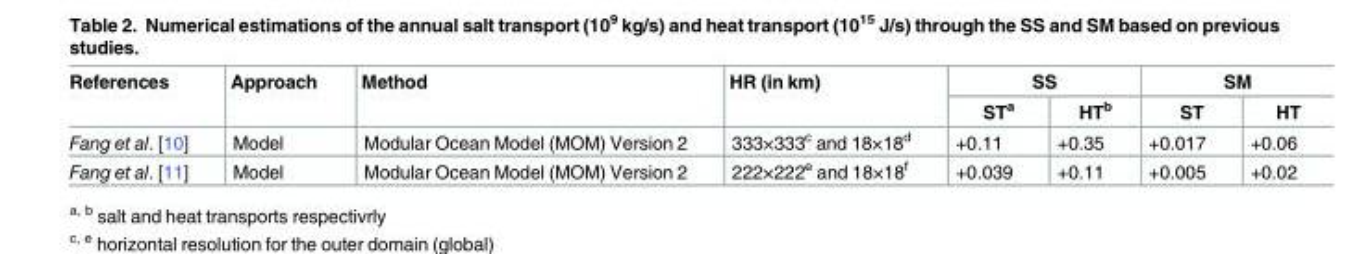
<table><thead><tr><td rowspan="2">References</td><td rowspan="2">Approach</td><td rowspan="2">Method</td><td rowspan="2">HR (in km)</td><td colspan="2">SS</td><td colspan="2">SM</td></tr><tr><td>ST<sup>a</sup></td><td>HT<sup>b</sup></td><td>ST</td><td>HT</td></tr></thead><tbody><tr><td>Fang et al. [10]</td><td>Model</td><td>Modular Ocean Model (MOM) Version 2</td><td>333×333<sup>c</sup> and 18×18<sup>d</sup></td><td>+0.11</td><td>+0.35</td><td>+0.017</td><td>+0.06</td></tr><tr><td>Fang et al. [11]</td><td>Model</td><td>Modular Ocean Model (MOM) Version 2</td><td>222×222<sup>e</sup> and 18×18<sup>f</sup></td><td>+0.039</td><td>+0.11</td><td>+0.005</td><td>+0.02</td></tr></tbody></table>